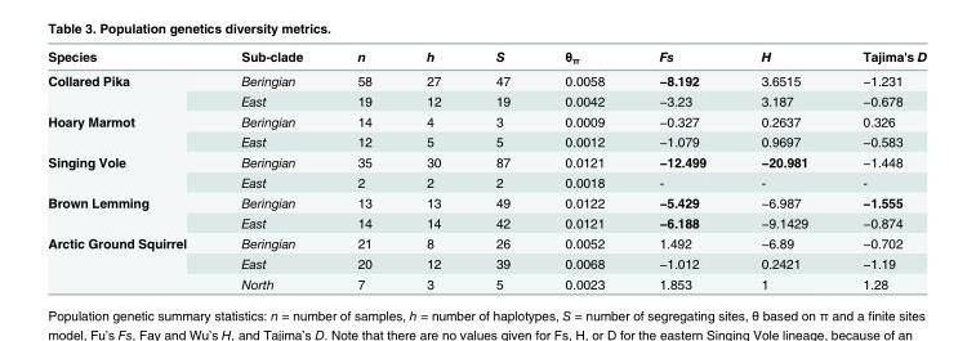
<table><thead><tr><td>Species</td><td>Sub-clade</td><td>n</td><td>h</td><td>S</td><td>θ<sub>π</sub></td><td>Fs</td><td>H</td><td>Tajima&#x27;s D</td></tr></thead><tbody><tr><td rowspan="2">Collared Pika</td><td>Beringian</td><td>58</td><td>27</td><td>47</td><td>0.0058</td><td>−8.192</td><td>3.6515</td><td>−1.231</td></tr><tr><td>East</td><td>19</td><td>12</td><td>19</td><td>0.0042</td><td>−3.23</td><td>3.187</td><td>−0.678</td></tr><tr><td rowspan="2">Hoary Marmot</td><td>Beringian</td><td>14</td><td>4</td><td>3</td><td>0.0009</td><td>−0.327</td><td>0.2637</td><td>0.326</td></tr><tr><td>East</td><td>12</td><td>5</td><td>5</td><td>0.0012</td><td>−1.079</td><td>0.9697</td><td>−0.583</td></tr><tr><td rowspan="2">Singing Vole</td><td>Beringian</td><td>35</td><td>30</td><td>87</td><td>0.0121</td><td>−12.499</td><td>−20.981</td><td>−1.448</td></tr><tr><td>East</td><td>2</td><td>2</td><td>2</td><td>0.0018</td><td>-</td><td>-</td><td>-</td></tr><tr><td rowspan="2">Brown Lemming</td><td>Beringian</td><td>13</td><td>13</td><td>49</td><td>0.0122</td><td>−5.429</td><td>−6.987</td><td>−1.555</td></tr><tr><td>East</td><td>14</td><td>14</td><td>42</td><td>0.0121</td><td>−6.188</td><td>−9.1429</td><td>−0.874</td></tr><tr><td rowspan="3">Arctic Ground Squirrel</td><td>Beringian</td><td>21</td><td>8</td><td>26</td><td>0.0052</td><td>1.492</td><td>−6.89</td><td>−0.702</td></tr><tr><td>East</td><td>20</td><td>12</td><td>39</td><td>0.0068</td><td>−1.012</td><td>0.2421</td><td>−1.19</td></tr><tr><td>North</td><td>7</td><td>3</td><td>5</td><td>0.0023</td><td>1.853</td><td>1</td><td>1.28</td></tr></tbody></table>